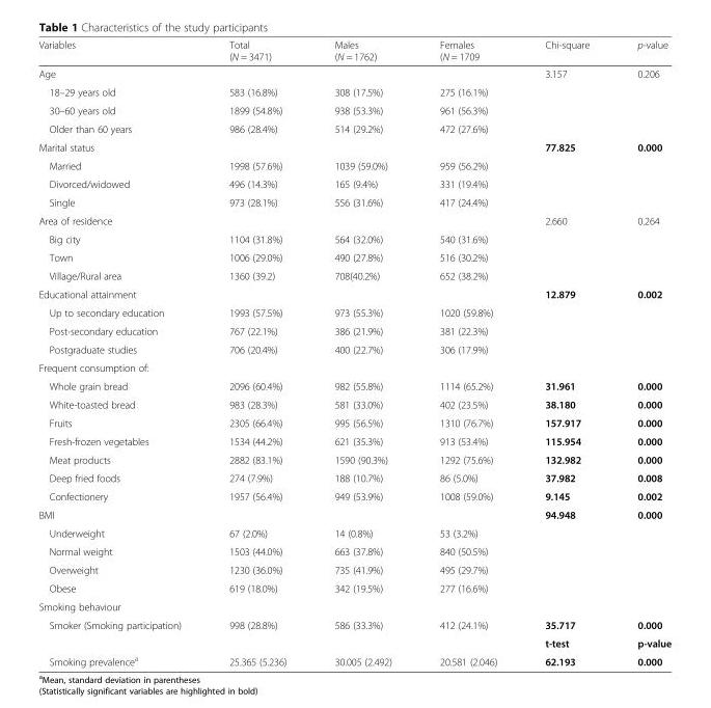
<table><thead><tr><td>Variables</td><td>Total (N = 3471)</td><td>Males (N = 1762)</td><td>Females (N = 1709</td><td>Chi-square</td><td>p-value</td></tr></thead><tbody><tr><td colspan="4">Age</td><td>3.157</td><td>0.206</td></tr><tr><td>18–29 years old</td><td>583 (16.8%)</td><td>308 (17.5%)</td><td>275 (16.1%)</td><td rowspan="3" colspan="2"></td></tr><tr><td>30–60 years old</td><td>1899 (54.8%)</td><td>938 (53.3%)</td><td>961 (56.3%)</td></tr><tr><td>Older than 60 years</td><td>986 (28.4%)</td><td>514 (29.2%)</td><td>472 (27.6%)</td></tr><tr><td colspan="4">Marital status</td><td>77.825</td><td>0.000</td></tr><tr><td>Married</td><td>1998 (57.6%)</td><td>1039 (59.0%)</td><td>959 (56.2%)</td><td rowspan="3" colspan="2"></td></tr><tr><td>Divorced/widowed</td><td>496 (14.3%)</td><td>165 (9.4%)</td><td>331 (19.4%)</td></tr><tr><td>Single</td><td>973 (28.1%)</td><td>556 (31.6%)</td><td>417 (24.4%)</td></tr><tr><td colspan="4">Area of residence</td><td>2.660</td><td>0.264</td></tr><tr><td>Big city</td><td>1104 (31.8%)</td><td>564 (32.0%)</td><td>540 (31.6%)</td><td colspan="2"></td></tr><tr><td>Town</td><td>1006 (29.0%)</td><td>490 (27.8%)</td><td>516 (30.2%)</td><td colspan="2"></td></tr><tr><td>Village/Rural area</td><td>1360 (39.2)</td><td>708(40.2%)</td><td>652 (38.2%)</td><td colspan="2"></td></tr><tr><td colspan="4">Educational attainment</td><td>12.879</td><td>0.002</td></tr><tr><td>Up to secondary education</td><td>1993 (57.5%)</td><td>973 (55.3%)</td><td>1020 (59.8%)</td><td colspan="2"></td></tr><tr><td>Post-secondary education</td><td>767 (22.1%)</td><td>386 (21.9%)</td><td>381 (22.3%)</td><td rowspan="2" colspan="2"></td></tr><tr><td>Postgraduate studies</td><td>706 (20.4%)</td><td>400 (22.7%)</td><td>306 (17.9%)</td></tr><tr><td colspan="6">Frequent consumption of:</td></tr><tr><td>Whole grain bread</td><td>2096 (60.4%)</td><td>982 (55.8%)</td><td>1114 (65.2%)</td><td>31.961</td><td>0.000</td></tr><tr><td>White-toasted bread</td><td>983 (28.3%)</td><td>581 (33.0%)</td><td>402 (23.5%)</td><td>38.180</td><td>0.000</td></tr><tr><td>Fruits</td><td>2305 (66.4%)</td><td>995 (56.5%)</td><td>1310 (76.7%)</td><td>157.917</td><td>0.000</td></tr><tr><td>Fresh-frozen vegetables</td><td>1534 (44.2%)</td><td>621 (35.3%)</td><td>913 (53.4%)</td><td>115.954</td><td>0.000</td></tr><tr><td>Meat products</td><td>2882 (83.1%)</td><td>1590 (90.3%)</td><td>1292 (75.6%)</td><td>132.982</td><td>0.000</td></tr><tr><td>Deep fried foods</td><td>274 (7.9%)</td><td>188 (10.7%)</td><td>86 (5.0%)</td><td>37.982</td><td>0.008</td></tr><tr><td>Confectionery</td><td>1957 (56.4%)</td><td>949 (53.9%)</td><td>1008 (59.0%)</td><td>9.145</td><td>0.002</td></tr><tr><td colspan="4">BMI</td><td>94.948</td><td>0.000</td></tr><tr><td>Underweight</td><td>67 (2.0%)</td><td>14 (0.8%)</td><td>53 (3.2%)</td><td rowspan="4" colspan="2"></td></tr><tr><td>Normal weight</td><td>1503 (44.0%)</td><td>663 (37.8%)</td><td>840 (50.5%)</td></tr><tr><td>Overweight</td><td>1230 (36.0%)</td><td>735 (41.9%)</td><td>495 (29.7%)</td></tr><tr><td>Obese</td><td>619 (18.0%)</td><td>342 (19.5%)</td><td>277 (16.6%)</td></tr><tr><td colspan="6">Smoking behaviour</td></tr><tr><td>Smoker (Smoking participation)</td><td>998 (28.8%)</td><td>586 (33.3%)</td><td>412 (24.1%)</td><td>35.717</td><td>0.000</td></tr><tr><td colspan="4"></td><td>t-test</td><td>p-value</td></tr><tr><td>Smoking prevalence<sup>a</sup></td><td>25.365 (5.236)</td><td>30.005 (2.492)</td><td>20.581 (2.046)</td><td>62.193</td><td>0.000</td></tr></tbody></table>